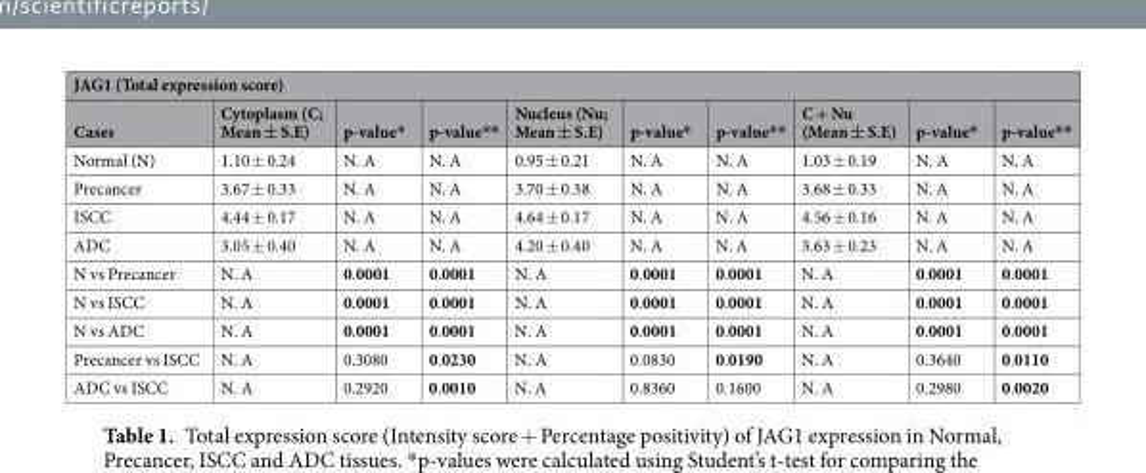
<table><thead><tr><td colspan="10">JAG1 (Total expression score)</td></tr><tr><td>Cases</td><td>Cytoplasm (C; Mean ± S.E)</td><td>p-value*</td><td>p-value**</td><td>Nucleus (Nu; Mean ± S.E)</td><td>p-value*</td><td>p-value**</td><td>C + Nu (Mean ± S.E)</td><td>p-value*</td><td>p-value**</td></tr></thead><tbody><tr><td>Normal (N)</td><td>1.10 ± 0.24</td><td>N. A</td><td>N. A</td><td>0.95 ± 0.21</td><td>N. A</td><td>N. A</td><td>1.03 ± 0.19</td><td>N. A</td><td>N. A</td></tr><tr><td>Precancer</td><td>3.67 ± 0.33</td><td>N. A</td><td>N. A</td><td>3.70 ± 0.38</td><td>N. A</td><td>N. A</td><td>3.68 ± 0.33</td><td>N. A</td><td>N. A</td></tr><tr><td>ISCC</td><td>4.44 ± 0.17</td><td>N. A</td><td>N. A</td><td>4.64 ± 0.17</td><td>N. A</td><td>N. A</td><td>4.56 ± 0.16</td><td>N. A</td><td>N. A</td></tr><tr><td>ADC</td><td>3.05 ± 0.40</td><td>N. A</td><td>N. A</td><td>4.20 ± 0.40</td><td>N. A</td><td>N. A</td><td>3.63 ± 0.23</td><td>N. A</td><td>N. A</td></tr><tr><td>N vs Precancer</td><td>N. A</td><td>0.0001</td><td>0.0001</td><td>N. A</td><td>0.0001</td><td>0.0001</td><td>N. A</td><td>0.0001</td><td>0.0001</td></tr><tr><td>N vs ISCC</td><td>N. A</td><td>0.0001</td><td>0.0001</td><td>N. A</td><td>0.0001</td><td>0.0001</td><td>N. A</td><td>0.0001</td><td>0.0001</td></tr><tr><td>N vs ADC</td><td>N. A</td><td>0.0001</td><td>0.0001</td><td>N. A</td><td>0.0001</td><td>0.0001</td><td>N. A</td><td>0.0001</td><td>0.0001</td></tr><tr><td>Precancer vs ISCC</td><td>N. A</td><td>0.3080</td><td>0.0230</td><td>N. A</td><td>0.0830</td><td>0.0190</td><td>N. A</td><td>0.3640</td><td>0.0110</td></tr><tr><td>ADC vs ISCC</td><td>N. A</td><td>0.2920</td><td>0.0010</td><td>N. A</td><td>0.8360</td><td>0.1600</td><td>N. A</td><td>0.2980</td><td>0.0020</td></tr></tbody></table>